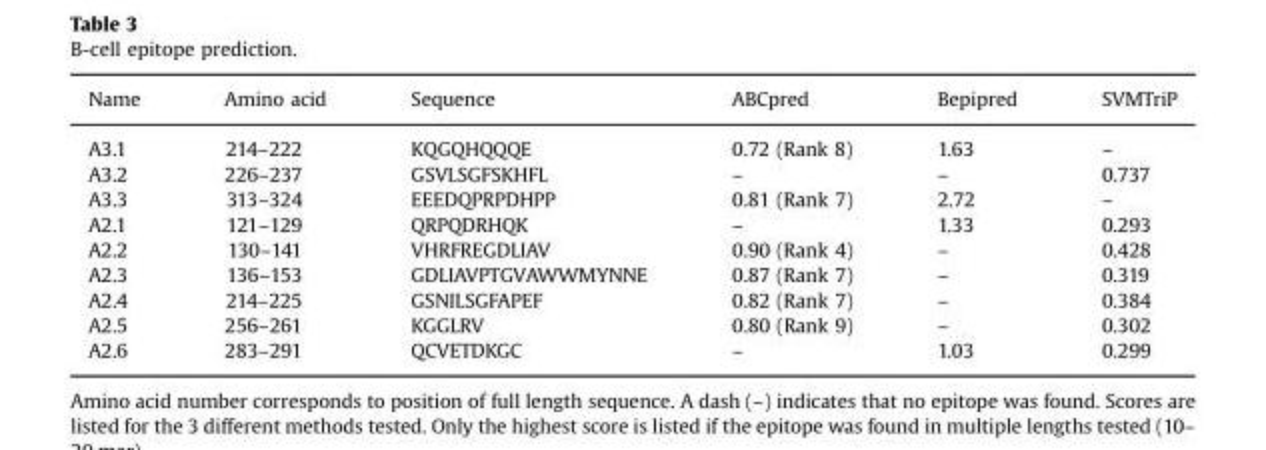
<table><thead><tr><td>Name</td><td>Amino acid</td><td>Sequence</td><td>ABCpred</td><td>Bepipred</td><td>SVMTriP</td></tr></thead><tbody><tr><td>A3.1</td><td>214–222</td><td>KQGQHQQQE</td><td>0.72 (Rank 8)</td><td>1.63</td><td>–</td></tr><tr><td>A3.2</td><td>226–237</td><td>GSVLSGFSKHFL</td><td>–</td><td>–</td><td>0.737</td></tr><tr><td>A3.3</td><td>313–324</td><td>EEEDQPRPDHPP</td><td>0.81 (Rank 7)</td><td>2.72</td><td>–</td></tr><tr><td>A2.1</td><td>121–129</td><td>QRPQDRHQK</td><td>–</td><td>1.33</td><td>0.293</td></tr><tr><td>A2.2</td><td>130–141</td><td>VHRFREGDLIAV</td><td>0.90 (Rank 4)</td><td>–</td><td>0.428</td></tr><tr><td>A2.3</td><td>136–153</td><td>GDLIAVPTGVAWWMYNNE</td><td>0.87 (Rank 7)</td><td>–</td><td>0.319</td></tr><tr><td>A2.4</td><td>214–225</td><td>GSNILSGFAPEF</td><td>0.82 (Rank 7)</td><td>–</td><td>0.384</td></tr><tr><td>A2.5</td><td>256–261</td><td>KGGLRV</td><td>0.80 (Rank 9)</td><td>–</td><td>0.302</td></tr><tr><td>A2.6</td><td>283–291</td><td>QCVETDKGC</td><td>–</td><td>1.03</td><td>0.299</td></tr></tbody></table>